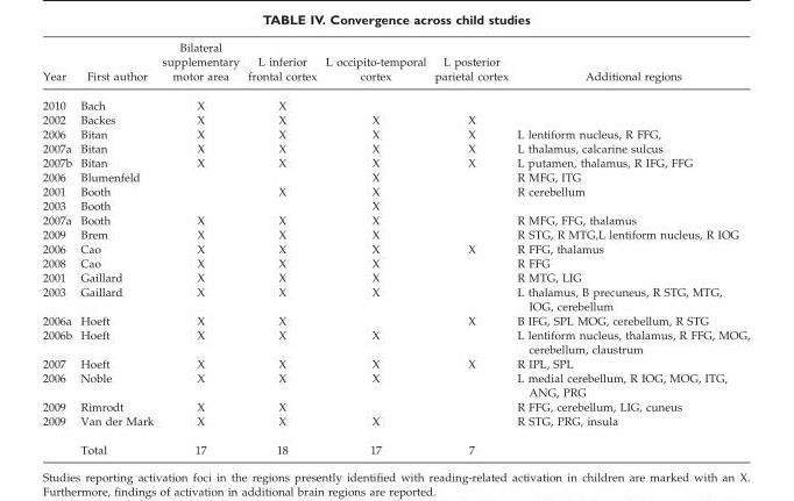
<table><thead><tr><td>Year</td><td>First author</td><td>Bilateral supplementary motor area</td><td>L inferior frontal cortex</td><td>L occipito-temporal cortex</td><td>L posterior parietal cortex</td><td>Additional regions</td></tr></thead><tbody><tr><td>2010</td><td>Bach</td><td>X</td><td>X</td><td></td><td></td><td></td></tr><tr><td>2002</td><td>Backes</td><td>X</td><td>X</td><td>X</td><td>X</td><td></td></tr><tr><td>2006</td><td>Bitan</td><td>X</td><td>X</td><td>X</td><td>X</td><td>L lentiform nucleus, R FFG,</td></tr><tr><td>2007a</td><td>Bitan</td><td>X</td><td>X</td><td>X</td><td>X</td><td>L thalamus, calcarine sulcus</td></tr><tr><td>2007b</td><td>Bitan</td><td>X</td><td>X</td><td>X</td><td>X</td><td>L putamen, thalamus, R IFG, FFG</td></tr><tr><td>2006</td><td>Blumenfeld</td><td></td><td></td><td>X</td><td></td><td>R MFG, ITG</td></tr><tr><td>2001</td><td>Booth</td><td></td><td>X</td><td>X</td><td></td><td>R cerebellum</td></tr><tr><td>2003</td><td>Booth</td><td></td><td></td><td>X</td><td></td><td></td></tr><tr><td>2007a</td><td>Booth</td><td>X</td><td>X</td><td>X</td><td></td><td>R MFG, FFG, thalamus</td></tr><tr><td>2009</td><td>Brem</td><td>X</td><td>X</td><td>X</td><td></td><td>R STG, R MTG,L lentiform nucleus, R IOG</td></tr><tr><td>2006</td><td>Cao</td><td>X</td><td>X</td><td>X</td><td>X</td><td>R FFG, thalamus</td></tr><tr><td>2008</td><td>Cao</td><td>X</td><td>X</td><td>X</td><td></td><td>R FFG</td></tr><tr><td>2001</td><td>Gaillard</td><td>X</td><td>X</td><td>X</td><td></td><td>R MTG, LIG</td></tr><tr><td>2003</td><td>Gaillard</td><td>X</td><td>X</td><td>X</td><td></td><td>L thalamus, B precuneus, R STG, MTG, IOG, cerebellum</td></tr><tr><td>2006a</td><td>Hoeft</td><td>X</td><td>X</td><td></td><td>X</td><td>B IFG, SPL MOG, cerebellum, R STG</td></tr><tr><td>2006b</td><td>Hoeft</td><td>X</td><td>X</td><td>X</td><td></td><td>L lentiform nucleus, thalamus, R FFG, MOG, cerebellum, claustrum</td></tr><tr><td>2007</td><td>Hoeft</td><td>X</td><td>X</td><td>X</td><td>X</td><td>R IPL, SPL</td></tr><tr><td>2006</td><td>Noble</td><td>X</td><td>X</td><td>X</td><td></td><td>L medial cerebellum, R IOG, MOG, ITG, ANG, PRG</td></tr><tr><td>2009</td><td>Rimrodt</td><td>X</td><td>X</td><td></td><td></td><td>R FFG, cerebellum, LIG, cuneus</td></tr><tr><td rowspan="2">2009</td><td>Van der Mark</td><td>X</td><td>X</td><td>X</td><td></td><td>R STG, PRG, insula</td></tr><tr><td>Total</td><td>17</td><td>18</td><td>17</td><td>7</td><td></td></tr></tbody></table>